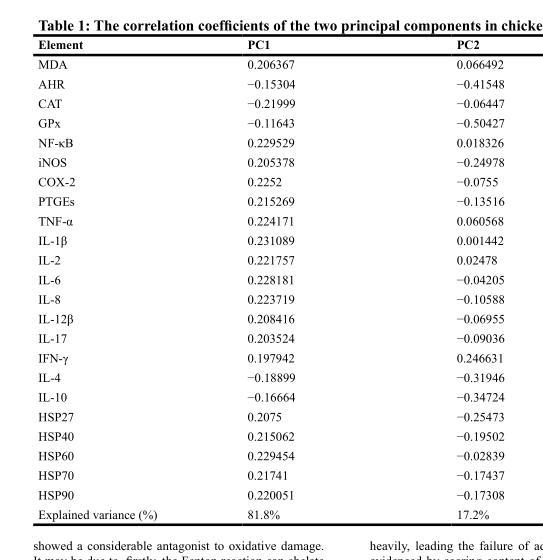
<table><thead><tr><td>Element</td><td>PC1</td><td>PC2</td></tr></thead><tbody><tr><td>MDA</td><td>0.206367</td><td>0.066492</td></tr><tr><td>AHR</td><td>−0.15304</td><td>−0.41548</td></tr><tr><td>CAT</td><td>−0.21999</td><td>−0.06447</td></tr><tr><td>GPx</td><td>−0.11643</td><td>−0.50427</td></tr><tr><td>NF-κB</td><td>0.229529</td><td>0.018326</td></tr><tr><td>iNOS</td><td>0.205378</td><td>−0.24978</td></tr><tr><td>COX-2</td><td>0.2252</td><td>−0.0755</td></tr><tr><td>PTGEs</td><td>0.215269</td><td>−0.13516</td></tr><tr><td>TNF-α</td><td>0.224171</td><td>0.060568</td></tr><tr><td>IL-1β</td><td>0.231089</td><td>0.001442</td></tr><tr><td>IL-2</td><td>0.221757</td><td>0.02478</td></tr><tr><td>IL-6</td><td>0.228181</td><td>−0.04205</td></tr><tr><td>IL-8</td><td>0.223719</td><td>−0.10588</td></tr><tr><td>IL-12β</td><td>0.208416</td><td>−0.06955</td></tr><tr><td>IL-17</td><td>0.203524</td><td>−0.09036</td></tr><tr><td>IFN-γ</td><td>0.197942</td><td>0.246631</td></tr><tr><td>IL-4</td><td>−0.18899</td><td>−0.31946</td></tr><tr><td>IL-10</td><td>−0.16664</td><td>−0.34724</td></tr><tr><td>HSP27</td><td>0.2075</td><td>−0.25473</td></tr><tr><td>HSP40</td><td>0.215062</td><td>−0.19502</td></tr><tr><td>HSP60</td><td>0.229454</td><td>−0.02839</td></tr><tr><td>HSP70</td><td>0.21741</td><td>−0.17437</td></tr><tr><td>HSP90</td><td>0.220051</td><td>−0.17308</td></tr><tr><td>Explained variance (%)</td><td>81.8%</td><td>17.2%</td></tr></tbody></table>